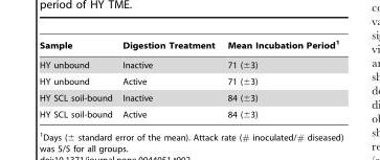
<table><thead><tr><td>Sample</td><td>Digestion Treatment</td><td>Mean Incubation Period<sup>1</sup></td></tr></thead><tbody><tr><td>HY unbound</td><td>Inactive</td><td>71 (±3)</td></tr><tr><td>HY unbound</td><td>Active</td><td>71 (±3)</td></tr><tr><td>HY SCL soil-bound</td><td>Inactive</td><td>84 (±3)</td></tr><tr><td>HY SCL soil-bound</td><td>Active</td><td>84 (±3)</td></tr></tbody></table>